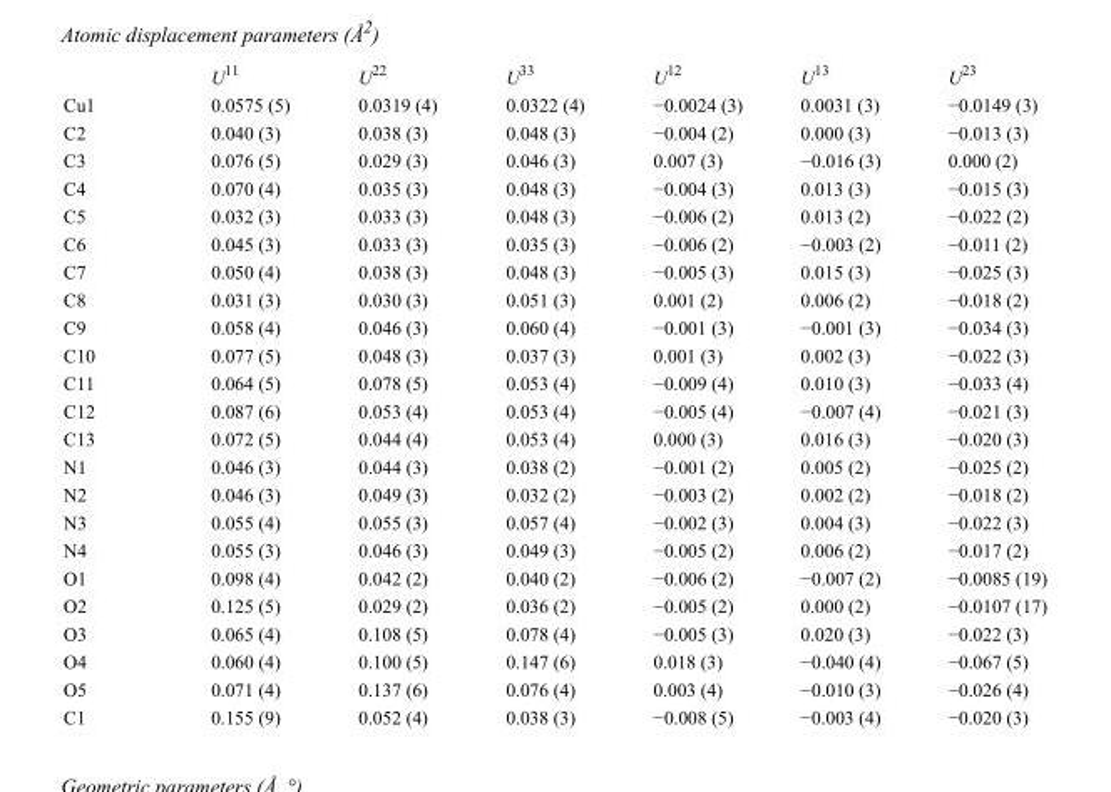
<table><thead><tr><td></td><td>U<sup>11</sup></td><td>U<sup>22</sup></td><td>U<sup>33</sup></td><td>U<sup>12</sup></td><td>U<sup>13</sup></td><td>U<sup>23</sup></td></tr></thead><tbody><tr><td>Cu1</td><td>0.0575 (5)</td><td>0.0319 (4)</td><td>0.0322 (4)</td><td>−0.0024 (3)</td><td>0.0031 (3)</td><td>−0.0149 (3)</td></tr><tr><td>C2</td><td>0.040 (3)</td><td>0.038 (3)</td><td>0.048 (3)</td><td>−0.004 (2)</td><td>0.000 (3)</td><td>−0.013 (3)</td></tr><tr><td>C3</td><td>0.076 (5)</td><td>0.029 (3)</td><td>0.046 (3)</td><td>0.007 (3)</td><td>−0.016 (3)</td><td>0.000 (2)</td></tr><tr><td>C4</td><td>0.070 (4)</td><td>0.035 (3)</td><td>0.048 (3)</td><td>−0.004 (3)</td><td>0.013 (3)</td><td>−0.015 (3)</td></tr><tr><td>C5</td><td>0.032 (3)</td><td>0.033 (3)</td><td>0.048 (3)</td><td>−0.006 (2)</td><td>0.013 (2)</td><td>−0.022 (2)</td></tr><tr><td>C6</td><td>0.045 (3)</td><td>0.033 (3)</td><td>0.035 (3)</td><td>−0.006 (2)</td><td>−0.003 (2)</td><td>−0.011 (2)</td></tr><tr><td>C7</td><td>0.050 (4)</td><td>0.038 (3)</td><td>0.048 (3)</td><td>−0.005 (3)</td><td>0.015 (3)</td><td>−0.025 (3)</td></tr><tr><td>C8</td><td>0.031 (3)</td><td>0.030 (3)</td><td>0.051 (3)</td><td>0.001 (2)</td><td>0.006 (2)</td><td>−0.018 (2)</td></tr><tr><td>C9</td><td>0.058 (4)</td><td>0.046 (3)</td><td>0.060 (4)</td><td>−0.001 (3)</td><td>−0.001 (3)</td><td>−0.034 (3)</td></tr><tr><td>C10</td><td>0.077 (5)</td><td>0.048 (3)</td><td>0.037 (3)</td><td>0.001 (3)</td><td>0.002 (3)</td><td>−0.022 (3)</td></tr><tr><td>C11</td><td>0.064 (5)</td><td>0.078 (5)</td><td>0.053 (4)</td><td>−0.009 (4)</td><td>0.010 (3)</td><td>−0.033 (4)</td></tr><tr><td>C12</td><td>0.087 (6)</td><td>0.053 (4)</td><td>0.053 (4)</td><td>−0.005 (4)</td><td>−0.007 (4)</td><td>−0.021 (3)</td></tr><tr><td>C13</td><td>0.072 (5)</td><td>0.044 (4)</td><td>0.053 (4)</td><td>0.000 (3)</td><td>0.016 (3)</td><td>−0.020 (3)</td></tr><tr><td>N1</td><td>0.046 (3)</td><td>0.044 (3)</td><td>0.038 (2)</td><td>−0.001 (2)</td><td>0.005 (2)</td><td>−0.025 (2)</td></tr><tr><td>N2</td><td>0.046 (3)</td><td>0.049 (3)</td><td>0.032 (2)</td><td>−0.003 (2)</td><td>0.002 (2)</td><td>−0.018 (2)</td></tr><tr><td>N3</td><td>0.055 (4)</td><td>0.055 (3)</td><td>0.057 (4)</td><td>−0.002 (3)</td><td>0.004 (3)</td><td>−0.022 (3)</td></tr><tr><td>N4</td><td>0.055 (3)</td><td>0.046 (3)</td><td>0.049 (3)</td><td>−0.005 (2)</td><td>0.006 (2)</td><td>−0.017 (2)</td></tr><tr><td>O1</td><td>0.098 (4)</td><td>0.042 (2)</td><td>0.040 (2)</td><td>−0.006 (2)</td><td>−0.007 (2)</td><td>−0.0085 (19)</td></tr><tr><td>O2</td><td>0.125 (5)</td><td>0.029 (2)</td><td>0.036 (2)</td><td>−0.005 (2)</td><td>0.000 (2)</td><td>−0.0107 (17)</td></tr><tr><td>O3</td><td>0.065 (4)</td><td>0.108 (5)</td><td>0.078 (4)</td><td>−0.005 (3)</td><td>0.020 (3)</td><td>−0.022 (3)</td></tr><tr><td>O4</td><td>0.060 (4)</td><td>0.100 (5)</td><td>0.147 (6)</td><td>0.018 (3)</td><td>−0.040 (4)</td><td>−0.067 (5)</td></tr><tr><td>O5</td><td>0.071 (4)</td><td>0.137 (6)</td><td>0.076 (4)</td><td>0.003 (4)</td><td>−0.010 (3)</td><td>−0.026 (4)</td></tr><tr><td>C1</td><td>0.155 (9)</td><td>0.052 (4)</td><td>0.038 (3)</td><td>−0.008 (5)</td><td>−0.003 (4)</td><td>−0.020 (3)</td></tr></tbody></table>